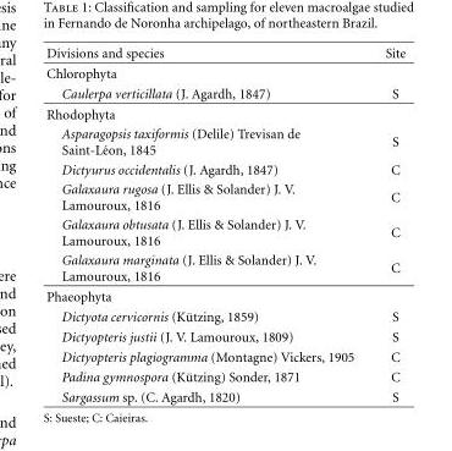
<table><thead><tr><td>Divisions and species</td><td>Site</td></tr></thead><tbody><tr><td colspan="2">Chlorophyta</td></tr><tr><td>Caulerpa verticillata (J. Agardh, 1847)</td><td>S</td></tr><tr><td colspan="2">Rhodophyta</td></tr><tr><td>Asparagopsis taxiformis (Delile) Trevisan de Saint-L´eon, 1845</td><td>S</td></tr><tr><td>Dictyurus occidentalis (J. Agardh, 1847)</td><td>C</td></tr><tr><td>Galaxaura rugosa (J. Ellis &amp; Solander) J. V. Lamouroux, 1816</td><td>C</td></tr><tr><td>Galaxaura obtusata (J. Ellis &amp; Solander) J. V. Lamouroux, 1816</td><td>C</td></tr><tr><td>Galaxaura marginata (J. Ellis &amp; Solander) J. V. Lamouroux, 1816</td><td>C</td></tr><tr><td colspan="2">Phaeophyta</td></tr><tr><td>Dictyota cervicornis (K¨utzing, 1859)</td><td>S</td></tr><tr><td>Dictyopteris justii (J. V. Lamouroux, 1809)</td><td>S</td></tr><tr><td>Dictyopteris plagiogramma (Montagne) Vickers, 1905</td><td>C</td></tr><tr><td>Padina gymnospora (K¨utzing) Sonder, 1871</td><td>C</td></tr><tr><td>Sargassum sp. (C. Agardh, 1820)</td><td>S</td></tr></tbody></table>